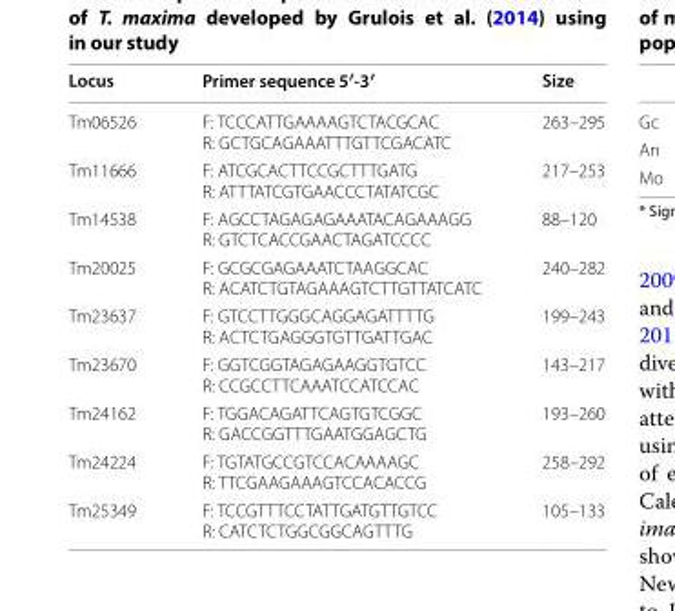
<table><thead><tr><td>Locus</td><td>Primer sequence 5′-3′</td><td>Size</td></tr></thead><tbody><tr><td>Tm06526</td><td>F: TCCCATTGAAAAGTCTACGCAC R: GCTGCAGAAATTTGTTCGACATC</td><td>263–295</td></tr><tr><td>Tm11666</td><td>F: ATCGCACTTCCGCTTTGATG R: ATTTATCGTGAACCCTATATCGC</td><td>217–253</td></tr><tr><td>Tm14538</td><td>F: AGCCTAGAGAGAAATACAGAAAGG R: GTCTCACCGAACTAGATCCCC</td><td>88–120</td></tr><tr><td>Tm20025</td><td>F: GCGCGAGAAATCTAAGGCAC R: ACATCTGTAGAAAGTCTTGTTATCATC</td><td>240–282</td></tr><tr><td>Tm23637</td><td>F: GTCCTTGGGCAGGAGATTTTG R: ACTCTGAGGGTGTTGATTGAC</td><td>199–243</td></tr><tr><td>Tm23670</td><td>F: GGTCGGTAGAGAAGGTGTCC R: CCGCCTTCAAATCCATCCAC</td><td>143–217</td></tr><tr><td>Tm24162</td><td>F: TGGACAGATTCAGTGTCGGC R: GACCGGTTTGAATGGAGCTG</td><td>193–260</td></tr><tr><td>Tm24224</td><td>F: TGTATGCCGTCCACAAAAGC R: TTCGAAGAAAGTCCACACCG</td><td>258–292</td></tr><tr><td>Tm25349</td><td>F: TCCGTTTCCTATTGATGTTGTCC R: CATCTCTGGCGGCAGTTTG</td><td>105–133</td></tr></tbody></table>